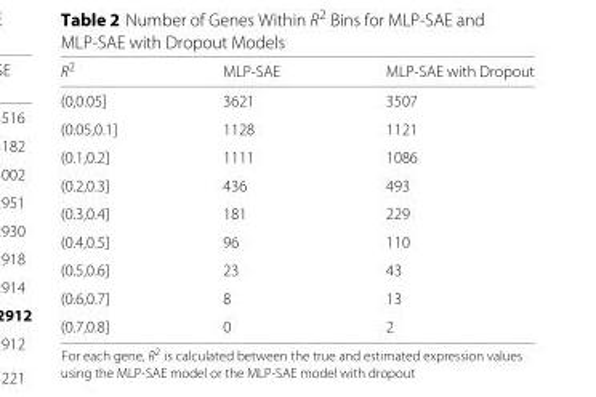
<table><thead><tr><td>R<sup>2</sup></td><td>MLP-SAE</td><td>MLP-SAE with Dropout</td></tr></thead><tbody><tr><td>(0,0.05]</td><td>3621</td><td>3507</td></tr><tr><td>(0.05,0.1]</td><td>1128</td><td>1121</td></tr><tr><td>(0.1,0.2]</td><td>1111</td><td>1086</td></tr><tr><td>(0.2,0.3]</td><td>436</td><td>493</td></tr><tr><td>(0.3,0.4]</td><td>181</td><td>229</td></tr><tr><td>(0.4,0.5]</td><td>96</td><td>110</td></tr><tr><td>(0.5,0.6]</td><td>23</td><td>43</td></tr><tr><td>(0.6,0.7]</td><td>8</td><td>13</td></tr><tr><td>(0.7,0.8]</td><td>0</td><td>2</td></tr></tbody></table>